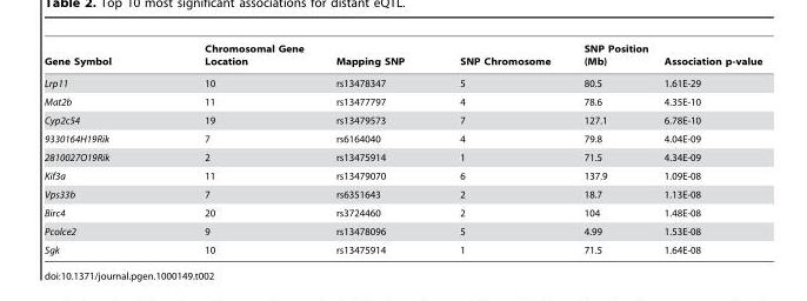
<table><thead><tr><td>Gene Symbol</td><td>Chromosomal Gene Location</td><td>Mapping SNP</td><td>SNP Chromosome</td><td>SNP Position (Mb)</td><td>Association p-value</td></tr></thead><tbody><tr><td>Lrp11</td><td>10</td><td>rs13478347</td><td>5</td><td>80.5</td><td>1.61E-29</td></tr><tr><td>Mat2b</td><td>11</td><td>rs13477797</td><td>4</td><td>78.6</td><td>4.35E-10</td></tr><tr><td>Cyp2c54</td><td>19</td><td>rs13479573</td><td>7</td><td>127.1</td><td>6.78E-10</td></tr><tr><td>9330164H19Rik</td><td>7</td><td>rs6164040</td><td>4</td><td>79.8</td><td>4.04E-09</td></tr><tr><td>2810027O19Rik</td><td>2</td><td>rs13475914</td><td>1</td><td>71.5</td><td>4.34E-09</td></tr><tr><td>Kif3a</td><td>11</td><td>rs13479070</td><td>6</td><td>137.9</td><td>1.09E-08</td></tr><tr><td>Vps33b</td><td>7</td><td>rs6351643</td><td>2</td><td>18.7</td><td>1.13E-08</td></tr><tr><td>Birc4</td><td>20</td><td>rs3724460</td><td>2</td><td>104</td><td>1.48E-08</td></tr><tr><td>Pcolce2</td><td>9</td><td>rs13478096</td><td>5</td><td>4.99</td><td>1.53E-08</td></tr><tr><td>Sgk</td><td>10</td><td>rs13475914</td><td>1</td><td>71.5</td><td>1.64E-08</td></tr></tbody></table>